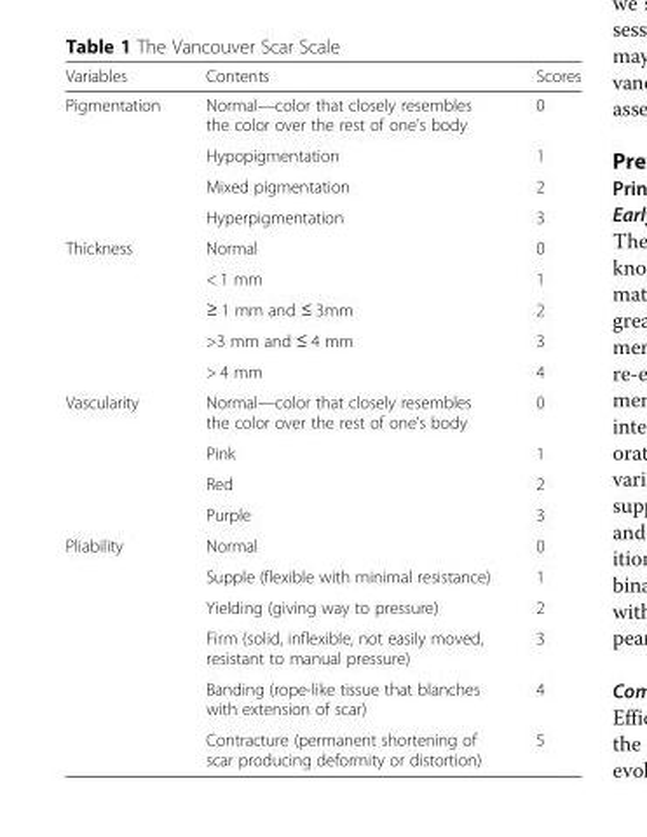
<table><thead><tr><td>Variables</td><td>Contents</td><td>Scores</td></tr></thead><tbody><tr><td rowspan="4">Pigmentation</td><td>Normal—color that closely resembles the color over the rest of one’s body</td><td>0</td></tr><tr><td>Hypopigmentation</td><td>1</td></tr><tr><td>Mixed pigmentation</td><td>2</td></tr><tr><td>Hyperpigmentation</td><td>3</td></tr><tr><td rowspan="5">Thickness</td><td>Normal</td><td>0</td></tr><tr><td>&lt; 1 mm</td><td>1</td></tr><tr><td>≥ 1 mm and ≤ 3mm</td><td>2</td></tr><tr><td>&gt;3 mm and ≤ 4 mm</td><td>3</td></tr><tr><td>&gt; 4 mm</td><td>4</td></tr><tr><td rowspan="4">Vascularity</td><td>Normal—color that closely resembles the color over the rest of one’s body</td><td>0</td></tr><tr><td>Pink</td><td>1</td></tr><tr><td>Red</td><td>2</td></tr><tr><td>Purple</td><td>3</td></tr><tr><td rowspan="6">Pliability</td><td>Normal</td><td>0</td></tr><tr><td>Supple (flexible with minimal resistance)</td><td>1</td></tr><tr><td>Yielding (giving way to pressure)</td><td>2</td></tr><tr><td>Firm (solid, inflexible, not easily moved, resistant to manual pressure)</td><td>3</td></tr><tr><td>Banding (rope-like tissue that blanches with extension of scar)</td><td>4</td></tr><tr><td>Contracture (permanent shortening of scar producing deformity or distortion)</td><td>5</td></tr></tbody></table>